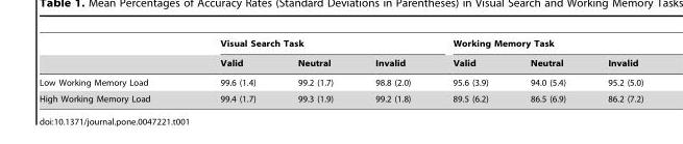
<table><thead><tr><td rowspan="2"></td><td colspan="3">Visual Search Task</td><td colspan="3">Working Memory Task</td></tr><tr><td>Valid</td><td>Neutral</td><td>Invalid</td><td>Valid</td><td>Neutral</td><td>Invalid</td></tr></thead><tbody><tr><td>Low Working Memory Load</td><td>99.6 (1.4)</td><td>99.2 (1.7)</td><td>98.8 (2.0)</td><td>95.6 (3.9)</td><td>94.0 (5.4)</td><td>95.2 (5.0)</td></tr><tr><td>High Working Memory Load</td><td>99.4 (1.7)</td><td>99.3 (1.9)</td><td>99.2 (1.8)</td><td>89.5 (6.2)</td><td>86.5 (6.9)</td><td>86.2 (7.2)</td></tr></tbody></table>